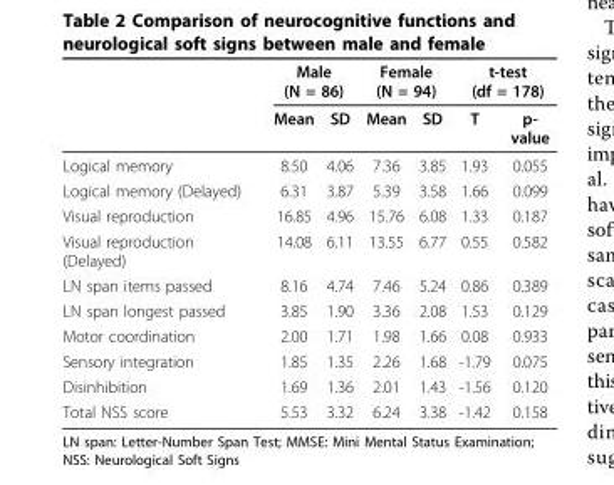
<table><thead><tr><td rowspan="2"></td><td colspan="2">Male (N = 86)</td><td colspan="2">Female (N = 94)</td><td colspan="2">t-test (df = 178)</td></tr><tr><td>Mean</td><td>SD</td><td>Mean</td><td>SD</td><td>T</td><td>p- value</td></tr></thead><tbody><tr><td>Logical memory</td><td>8.50</td><td>4.06</td><td>7.36</td><td>3.85</td><td>1.93</td><td>0.055</td></tr><tr><td>Logical memory (Delayed)</td><td>6.31</td><td>3.87</td><td>5.39</td><td>3.58</td><td>1.66</td><td>0.099</td></tr><tr><td>Visual reproduction</td><td>16.85</td><td>4.96</td><td>15.76</td><td>6.08</td><td>1.33</td><td>0.187</td></tr><tr><td>Visual reproduction (Delayed)</td><td>14.08</td><td>6.11</td><td>13.55</td><td>6.77</td><td>0.55</td><td>0.582</td></tr><tr><td>LN span items passed</td><td>8.16</td><td>4.74</td><td>7.46</td><td>5.24</td><td>0.86</td><td>0.389</td></tr><tr><td>LN span longest passed</td><td>3.85</td><td>1.90</td><td>3.36</td><td>2.08</td><td>1.53</td><td>0.129</td></tr><tr><td>Motor coordination</td><td>2.00</td><td>1.71</td><td>1.98</td><td>1.66</td><td>0.08</td><td>0.933</td></tr><tr><td>Sensory integration</td><td>1.85</td><td>1.35</td><td>2.26</td><td>1.68</td><td>-1.79</td><td>0.075</td></tr><tr><td>Disinhibition</td><td>1.69</td><td>1.36</td><td>2.01</td><td>1.43</td><td>-1.56</td><td>0.120</td></tr><tr><td>Total NSS score</td><td>5.53</td><td>3.32</td><td>6.24</td><td>3.38</td><td>-1.42</td><td>0.158</td></tr></tbody></table>